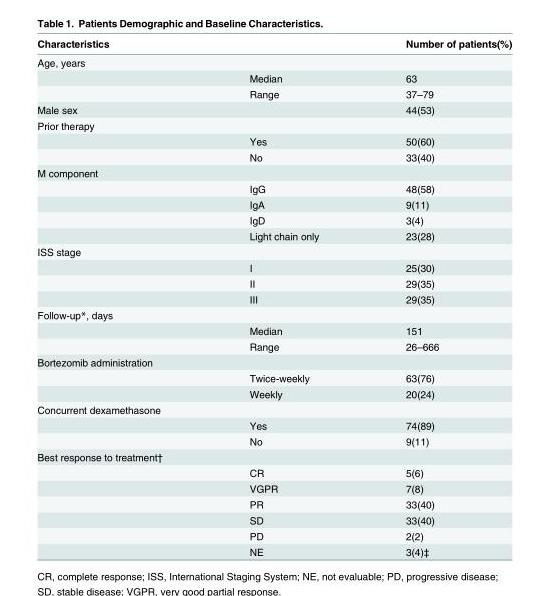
<table><thead><tr><td>Characteristics</td><td></td><td>Number of patients(%)</td></tr></thead><tbody><tr><td colspan="3">Age, years</td></tr><tr><td></td><td>Median</td><td>63</td></tr><tr><td></td><td>Range</td><td>37–79</td></tr><tr><td>Male sex</td><td></td><td>44(53)</td></tr><tr><td colspan="3">Prior therapy</td></tr><tr><td></td><td>Yes</td><td>50(60)</td></tr><tr><td></td><td>No</td><td>33(40)</td></tr><tr><td colspan="3">M component</td></tr><tr><td></td><td>IgG</td><td>48(58)</td></tr><tr><td></td><td>IgA</td><td>9(11)</td></tr><tr><td></td><td>IgD</td><td>3(4)</td></tr><tr><td></td><td>Light chain only</td><td>23(28)</td></tr><tr><td colspan="3">ISS stage</td></tr><tr><td></td><td>I</td><td>25(30)</td></tr><tr><td></td><td>II</td><td>29(35)</td></tr><tr><td></td><td>III</td><td>29(35)</td></tr><tr><td colspan="3">Follow-up*, days</td></tr><tr><td></td><td>Median</td><td>151</td></tr><tr><td></td><td>Range</td><td>26–666</td></tr><tr><td colspan="3">Bortezomib administration</td></tr><tr><td></td><td>Twice-weekly</td><td>63(76)</td></tr><tr><td></td><td>Weekly</td><td>20(24)</td></tr><tr><td colspan="3">Concurrent dexamethasone</td></tr><tr><td></td><td>Yes</td><td>74(89)</td></tr><tr><td></td><td>No</td><td>9(11)</td></tr><tr><td colspan="3">Best response to treatment†</td></tr><tr><td></td><td>CR</td><td>5(6)</td></tr><tr><td></td><td>VGPR</td><td>7(8)</td></tr><tr><td></td><td>PR</td><td>33(40)</td></tr><tr><td></td><td>SD</td><td>33(40)</td></tr><tr><td></td><td>PD</td><td>2(2)</td></tr><tr><td></td><td>NE</td><td>3(4)‡</td></tr></tbody></table>